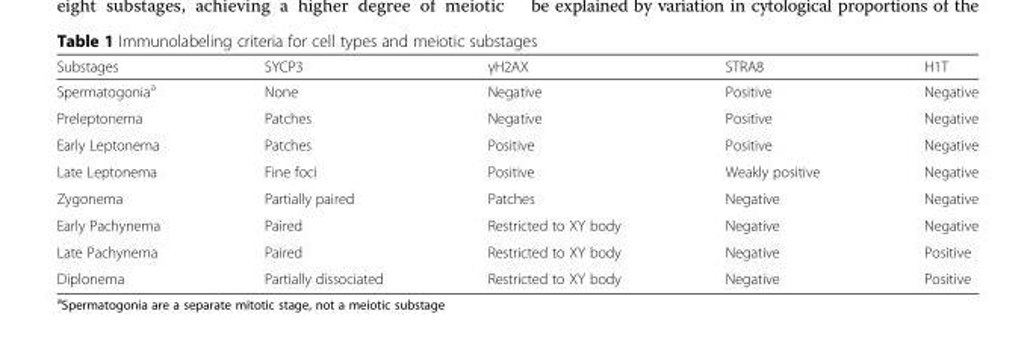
<table><thead><tr><td>Substages</td><td>SYCP3</td><td>γH2AX</td><td>STRA8</td><td>H1T</td></tr></thead><tbody><tr><td>Spermatogonia<sup>a</sup></td><td>None</td><td>Negative</td><td>Positive</td><td>Negative</td></tr><tr><td>Preleptonema</td><td>Patches</td><td>Negative</td><td>Positive</td><td>Negative</td></tr><tr><td>Early Leptonema</td><td>Patches</td><td>Positive</td><td>Positive</td><td>Negative</td></tr><tr><td>Late Leptonema</td><td>Fine foci</td><td>Positive</td><td>Weakly positive</td><td>Negative</td></tr><tr><td>Zygonema</td><td>Partially paired</td><td>Patches</td><td>Negative</td><td>Negative</td></tr><tr><td>Early Pachynema</td><td>Paired</td><td>Restricted to XY body</td><td>Negative</td><td>Negative</td></tr><tr><td>Late Pachynema</td><td>Paired</td><td>Restricted to XY body</td><td>Negative</td><td>Positive</td></tr><tr><td>Diplonema</td><td>Partially dissociated</td><td>Restricted to XY body</td><td>Negative</td><td>Positive</td></tr></tbody></table>